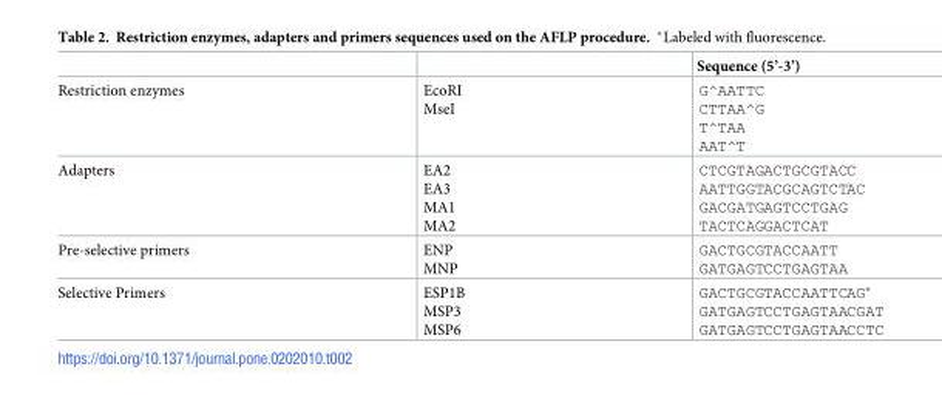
<table><thead><tr><td></td><td></td><td>Sequence (5’-3’)</td></tr></thead><tbody><tr><td>Restriction enzymes</td><td>EcoRI MseI</td><td>G^AATTC CTTAA^G T^TAA AAT^T</td></tr><tr><td>Adapters</td><td>EA2 EA3 MA1 MA2</td><td>CTCGTAGACTGCGTACC AATTGGTACGCAGTCTAC GACGATGAGTCCTGAG TACTCAGGACTCAT</td></tr><tr><td>Pre-selective primers</td><td>ENP MNP</td><td>GACTGCGTACCAATT GATGAGTCCTGAGTAA</td></tr><tr><td>Selective Primers</td><td>ESP1B MSP3 MSP6</td><td>GACTGCGTACCAATTCAG* GATGAGTCCTGAGTAACGAT GATGAGTCCTGAGTAACCTC</td></tr></tbody></table>